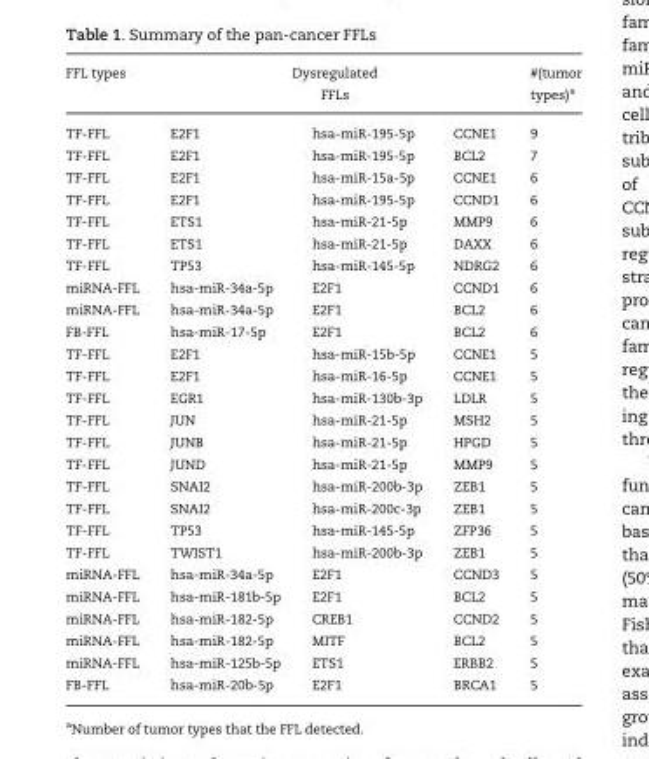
<table><thead><tr><td rowspan="2">FFL types TF-FFL</td><td colspan="3">Dysregulated FFLs</td><td rowspan="2">#(tumor types)<sup>a</sup> 9</td></tr><tr><td>E2F1</td><td>hsa-miR-195-5p</td><td>CCNE1</td></tr></thead><tbody><tr><td>TF-FFL</td><td>E2F1</td><td>hsa-miR-195-5p</td><td>BCL2</td><td>7</td></tr><tr><td>TF-FFL</td><td>E2F1</td><td>hsa-miR-15a-5p</td><td>CCNE1</td><td>6</td></tr><tr><td>TF-FFL</td><td>E2F1</td><td>hsa-miR-195-5p</td><td>CCND1</td><td>6</td></tr><tr><td>TF-FFL</td><td>ETS1</td><td>hsa-miR-21-5p</td><td>MMP9</td><td>6</td></tr><tr><td>TF-FFL</td><td>ETS1</td><td>hsa-miR-21-5p</td><td>DAXX</td><td>6</td></tr><tr><td>TF-FFL</td><td>TP53</td><td>hsa-miR-145-5p</td><td>NDRG2</td><td>6</td></tr><tr><td>miRNA-FFL</td><td>hsa-miR-34a-5p</td><td>E2F1</td><td>CCND1</td><td>6</td></tr><tr><td>miRNA-FFL</td><td>hsa-miR-34a-5p</td><td>E2F1</td><td>BCL2</td><td>6</td></tr><tr><td>FB-FFL</td><td>hsa-miR-17-5p</td><td>E2F1</td><td>BCL2</td><td>6</td></tr><tr><td>TF-FFL</td><td>E2F1</td><td>hsa-miR-15b-5p</td><td>CCNE1</td><td>5</td></tr><tr><td>TF-FFL</td><td>E2F1</td><td>hsa-miR-16-5p</td><td>CCNE1</td><td>5</td></tr><tr><td>TF-FFL</td><td>EGR1</td><td>hsa-miR-130b-3p</td><td>LDLR</td><td>5</td></tr><tr><td>TF-FFL</td><td>JUN</td><td>hsa-miR-21-5p</td><td>MSH2</td><td>5</td></tr><tr><td>TF-FFL</td><td>JUNB</td><td>hsa-miR-21-5p</td><td>HPGD</td><td>5</td></tr><tr><td>TF-FFL</td><td>JUND</td><td>hsa-miR-21-5p</td><td>MMP9</td><td>5</td></tr><tr><td>TF-FFL</td><td>SNAI2</td><td>hsa-miR-200b-3p</td><td>ZEB1</td><td>5</td></tr><tr><td>TF-FFL</td><td>SNAI2</td><td>hsa-miR-200c-3p</td><td>ZEB1</td><td>5</td></tr><tr><td>TF-FFL</td><td>TP53</td><td>hsa-miR-145-5p</td><td>ZFP36</td><td>5</td></tr><tr><td>TF-FFL</td><td>TWIST1</td><td>hsa-miR-200b-3p</td><td>ZEB1</td><td>5</td></tr><tr><td>miRNA-FFL</td><td>hsa-miR-34a-5p</td><td>E2F1</td><td>CCND3</td><td>5</td></tr><tr><td>miRNA-FFL</td><td>hsa-miR-181b-5p</td><td>E2F1</td><td>BCL2</td><td>5</td></tr><tr><td>miRNA-FFL</td><td>hsa-miR-182-5p</td><td>CREB1</td><td>CCND2</td><td>5</td></tr><tr><td>miRNA-FFL</td><td>hsa-miR-182-5p</td><td>MITF</td><td>BCL2</td><td>5</td></tr><tr><td>miRNA-FFL</td><td>hsa-miR-125b-5p</td><td>ETS1</td><td>ERBB2</td><td>5</td></tr><tr><td>FB-FFL</td><td>hsa-miR-20b-5p</td><td>E2F1</td><td>BRCA1</td><td>5</td></tr></tbody></table>